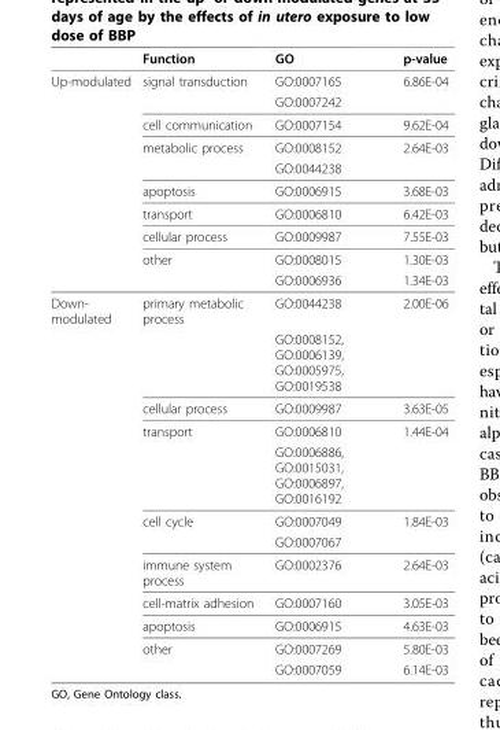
<table><thead><tr><td></td><td>Function</td><td>GO</td><td>p-value</td></tr></thead><tbody><tr><td rowspan="10">Up-modulated</td><td>signal transduction</td><td>GO:0007165</td><td>6.86E-04</td></tr><tr><td></td><td>GO:0007242</td><td></td></tr><tr><td>cell communication</td><td>GO:0007154</td><td>9.62E-04</td></tr><tr><td>metabolic process</td><td>GO:0008152</td><td>2.64E-03</td></tr><tr><td></td><td>GO:0044238</td><td></td></tr><tr><td>apoptosis</td><td>GO:0006915</td><td>3.68E-03</td></tr><tr><td>transport</td><td>GO:0006810</td><td>6.42E-03</td></tr><tr><td>cellular process</td><td>GO:0009987</td><td>7.55E-03</td></tr><tr><td>other</td><td>GO:0008015</td><td>1.30E-03</td></tr><tr><td></td><td>GO:0006936</td><td>1.34E-03</td></tr><tr><td rowspan="12">Down- modulated</td><td>primary metabolic process</td><td>GO:0044238</td><td>2.00E-06</td></tr><tr><td></td><td>GO:0008152, GO:0006139, GO:0005975, GO:0019538</td><td></td></tr><tr><td>cellular process</td><td>GO:0009987</td><td>3.63E-05</td></tr><tr><td>transport</td><td>GO:0006810</td><td>1.44E-04</td></tr><tr><td></td><td>GO:0006886, GO:0015031, GO:0006897, GO:0016192</td><td></td></tr><tr><td>cell cycle</td><td>GO:0007049</td><td>1.84E-03</td></tr><tr><td></td><td>GO:0007067</td><td></td></tr><tr><td>immune system process</td><td>GO:0002376</td><td>2.64E-03</td></tr><tr><td>cell-matrix adhesion</td><td>GO:0007160</td><td>3.05E-03</td></tr><tr><td>apoptosis</td><td>GO:0006915</td><td>4.63E-03</td></tr><tr><td>other</td><td>GO:0007269</td><td>5.80E-03</td></tr><tr><td></td><td>GO:0007059</td><td>6.14E-03</td></tr></tbody></table>